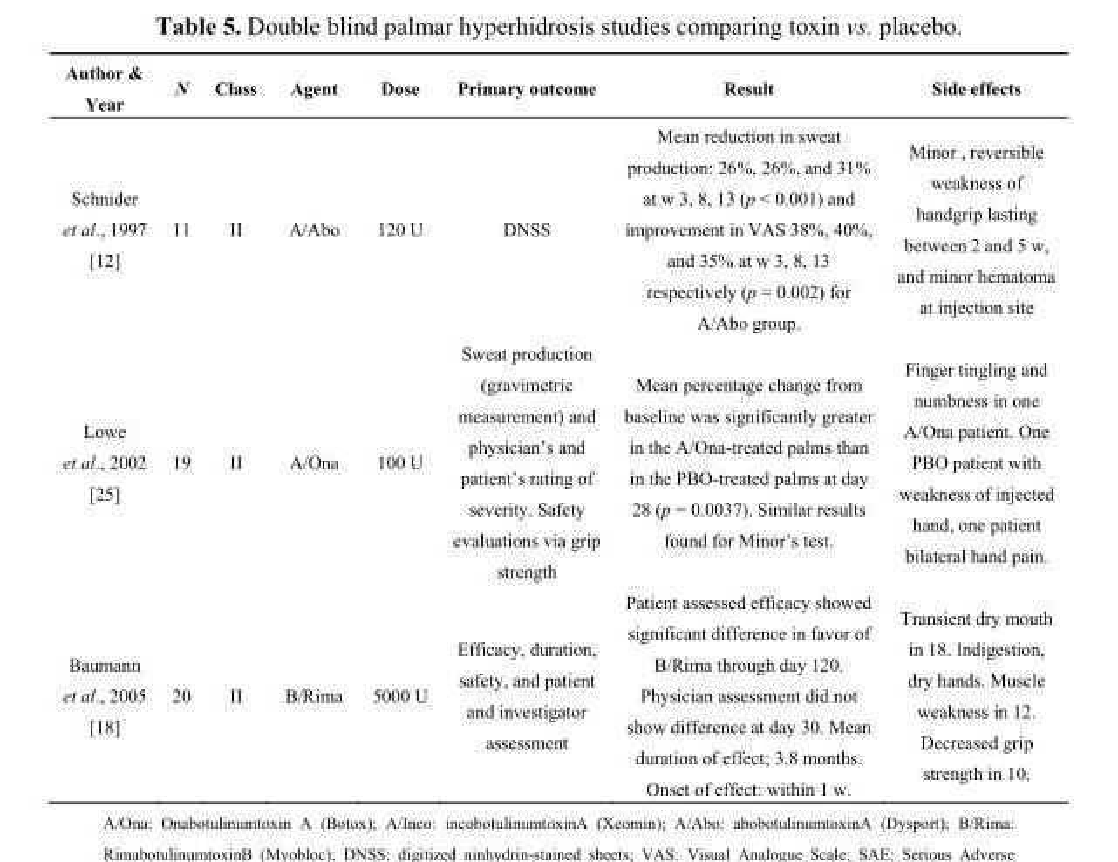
<table><thead><tr><td>Author &amp; Year</td><td>N</td><td>Class</td><td>Agent</td><td>Dose</td><td>Primary outcome</td><td>Result</td><td>Side effects</td></tr></thead><tbody><tr><td>Schnider et al., 1997 [12]</td><td>11</td><td>II</td><td>A/Abo</td><td>120 U</td><td>DNSS</td><td>Mean reduction in sweat production: 26%, 26%, and 31% at w 3, 8, 13 (p &lt; 0.001) and improvement in VAS 38%, 40%, and 35% at w 3, 8, 13 respectively (p = 0.002) for A/Abo group.</td><td>Minor , reversible weakness of handgrip lasting between 2 and 5 w, and minor hematoma at injection site</td></tr><tr><td>Lowe et al., 2002 [25]</td><td>19</td><td>II</td><td>A/Ona</td><td>100 U</td><td>Sweat production (gravimetric measurement) and physician’s and patient’s rating of severity. Safety evaluations via grip strength</td><td>Mean percentage change from baseline was significantly greater in the A/Ona-treated palms than in the PBO-treated palms at day 28 (p = 0.0037). Similar results found for Minor’s test.</td><td>Finger tingling and numbness in one A/Ona patient. One PBO patient with weakness of injected hand, one patient bilateral hand pain.</td></tr><tr><td>Baumann et al., 2005 [18]</td><td>20</td><td>II</td><td>B/Rima</td><td>5000 U</td><td>Efficacy, duration, safety, and patient and investigator assessment</td><td>Patient assessed efficacy showed significant difference in favor of B/Rima through day 120. Physician assessment did not show difference at day 30. Mean duration of effect; 3.8 months. Onset of effect: within 1 w.</td><td>Transient dry mouth in 18. Indigestion, dry hands. Muscle weakness in 12. Decreased grip strength in 10.</td></tr></tbody></table>